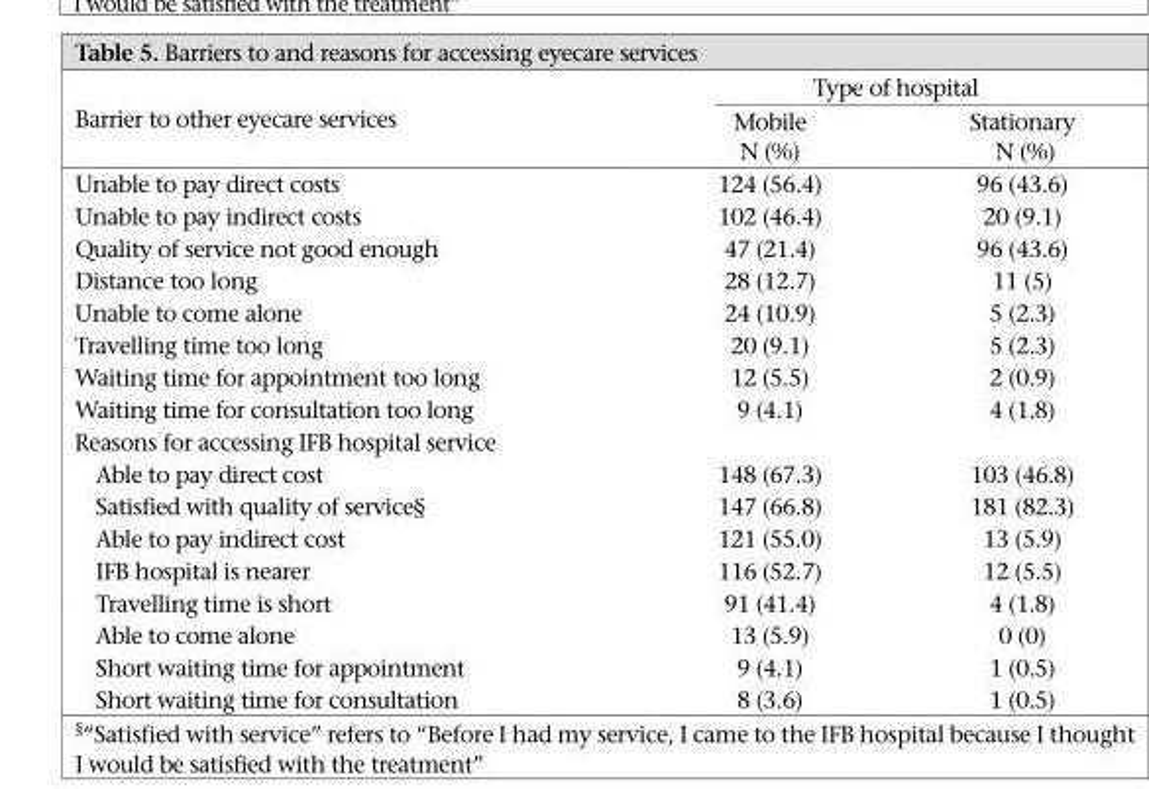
<table><thead><tr><td rowspan="2">Barrier to other eyecare services</td><td colspan="2">Type of hospital</td></tr><tr><td>Mobile N (%)</td><td>Stationary N (%)</td></tr></thead><tbody><tr><td>Unable to pay direct costs</td><td>124 (56.4)</td><td>96 (43.6)</td></tr><tr><td>Unable to pay indirect costs</td><td>102 (46.4)</td><td>20 (9.1)</td></tr><tr><td>Quality of service not good enough</td><td>47 (21.4)</td><td>96 (43.6)</td></tr><tr><td>Distance too long</td><td>28 (12.7)</td><td>11 (5)</td></tr><tr><td>Unable to come alone</td><td>24 (10.9)</td><td>5 (2.3)</td></tr><tr><td>Travelling time too long</td><td>20 (9.1)</td><td>5 (2.3)</td></tr><tr><td>Waiting time for appointment too long</td><td>12 (5.5)</td><td>2 (0.9)</td></tr><tr><td>Waiting time for consultation too long</td><td>9 (4.1)</td><td>4 (1.8)</td></tr><tr><td colspan="3">Reasons for accessing IFB hospital service</td></tr><tr><td>Able to pay direct cost</td><td>148 (67.3)</td><td>103 (46.8)</td></tr><tr><td>Satisfied with quality of service§</td><td>147 (66.8)</td><td>181 (82.3)</td></tr><tr><td>Able to pay indirect cost</td><td>121 (55.0)</td><td>13 (5.9)</td></tr><tr><td>IFB hospital is nearer</td><td>116 (52.7)</td><td>12 (5.5)</td></tr><tr><td>Travelling time is short</td><td>91 (41.4)</td><td>4 (1.8)</td></tr><tr><td>Able to come alone</td><td>13 (5.9)</td><td>0 (0)</td></tr><tr><td>Short waiting time for appointment</td><td>9 (4.1)</td><td>1 (0.5)</td></tr><tr><td>Short waiting time for consultation</td><td>8 (3.6)</td><td>1 (0.5)</td></tr></tbody></table>